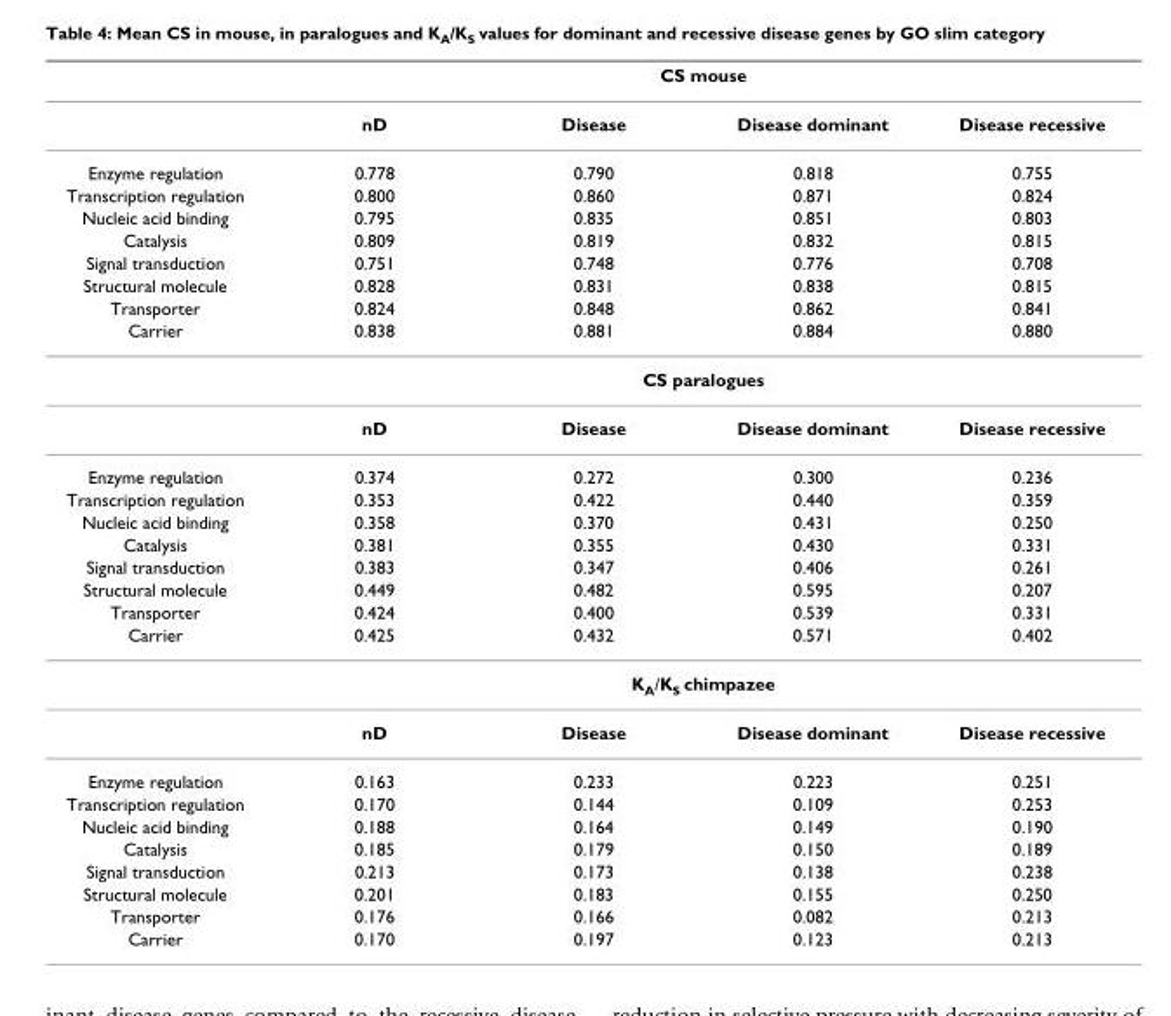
<table><thead><tr><td rowspan="2"></td><td colspan="4">CS mouse</td></tr><tr><td>nD</td><td>Disease</td><td>Disease dominant</td><td>Disease recessive</td></tr></thead><tbody><tr><td>Enzyme regulation</td><td>0.778</td><td>0.790</td><td>0.818</td><td>0.755</td></tr><tr><td>Transcription regulation</td><td>0.800</td><td>0.860</td><td>0.871</td><td>0.824</td></tr><tr><td>Nucleic acid binding</td><td>0.795</td><td>0.835</td><td>0.851</td><td>0.803</td></tr><tr><td>Catalysis</td><td>0.809</td><td>0.819</td><td>0.832</td><td>0.815</td></tr><tr><td>Signal transduction</td><td>0.751</td><td>0.748</td><td>0.776</td><td>0.708</td></tr><tr><td>Structural molecule</td><td>0.828</td><td>0.831</td><td>0.838</td><td>0.815</td></tr><tr><td>Transporter</td><td>0.824</td><td>0.848</td><td>0.862</td><td>0.841</td></tr><tr><td rowspan="3">Carrier</td><td>0.838</td><td>0.881</td><td>0.884</td><td>0.880</td></tr><tr><td colspan="4">CS paralogues</td></tr><tr><td>nD</td><td>Disease</td><td>Disease dominant</td><td>Disease recessive</td></tr><tr><td>Enzyme regulation</td><td>0.374</td><td>0.272</td><td>0.300</td><td>0.236</td></tr><tr><td>Transcription regulation</td><td>0.353</td><td>0.422</td><td>0.440</td><td>0.359</td></tr><tr><td>Nucleic acid binding</td><td>0.358</td><td>0.370</td><td>0.431</td><td>0.250</td></tr><tr><td>Catalysis</td><td>0.381</td><td>0.355</td><td>0.430</td><td>0.331</td></tr><tr><td>Signal transduction</td><td>0.383</td><td>0.347</td><td>0.406</td><td>0.261</td></tr><tr><td>Structural molecule</td><td>0.449</td><td>0.482</td><td>0.595</td><td>0.207</td></tr><tr><td>Transporter</td><td>0.424</td><td>0.400</td><td>0.539</td><td>0.331</td></tr><tr><td rowspan="3">Carrier</td><td>0.425</td><td>0.432</td><td>0.571</td><td>0.402</td></tr><tr><td colspan="4">KA/KS chimpazee</td></tr><tr><td>nD</td><td>Disease</td><td>Disease dominant</td><td>Disease recessive</td></tr><tr><td>Enzyme regulation</td><td>0.163</td><td>0.233</td><td>0.223</td><td>0.251</td></tr><tr><td>Transcription regulation</td><td>0.170</td><td>0.144</td><td>0.109</td><td>0.253</td></tr><tr><td>Nucleic acid binding</td><td>0.188</td><td>0.164</td><td>0.149</td><td>0.190</td></tr><tr><td>Catalysis</td><td>0.185</td><td>0.179</td><td>0.150</td><td>0.189</td></tr><tr><td>Signal transduction</td><td>0.213</td><td>0.173</td><td>0.138</td><td>0.238</td></tr><tr><td>Structural molecule</td><td>0.201</td><td>0.183</td><td>0.155</td><td>0.250</td></tr><tr><td>Transporter</td><td>0.176</td><td>0.166</td><td>0.082</td><td>0.213</td></tr><tr><td>Carrier</td><td>0.170</td><td>0.197</td><td>0.123</td><td>0.213</td></tr></tbody></table>